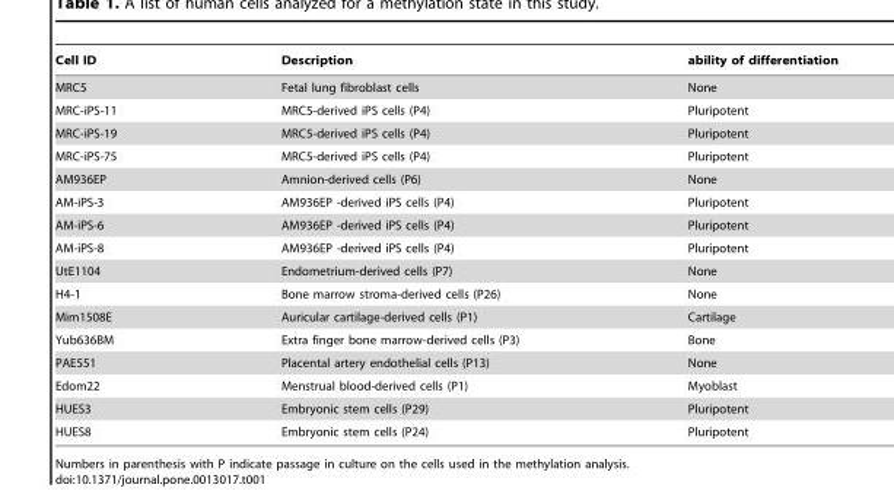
<table><thead><tr><td>Cell ID</td><td>Description</td><td>ability of differentiation</td></tr></thead><tbody><tr><td>MRC5</td><td>Fetal lung fibroblast cells</td><td>None</td></tr><tr><td>MRC-iPS-11</td><td>MRC5-derived iPS cells (P4)</td><td>Pluripotent</td></tr><tr><td>MRC-iPS-19</td><td>MRC5-derived iPS cells (P4)</td><td>Pluripotent</td></tr><tr><td>MRC-iPS-75</td><td>MRC5-derived iPS cells (P4)</td><td>Pluripotent</td></tr><tr><td>AM936EP</td><td>Amnion-derived cells (P6)</td><td>None</td></tr><tr><td>AM-iPS-3</td><td>AM936EP -derived iPS cells (P4)</td><td>Pluripotent</td></tr><tr><td>AM-iPS-6</td><td>AM936EP -derived iPS cells (P4)</td><td>Pluripotent</td></tr><tr><td>AM-iPS-8</td><td>AM936EP -derived iPS cells (P4)</td><td>Pluripotent</td></tr><tr><td>UtE1104</td><td>Endometrium-derived cells (P7)</td><td>None</td></tr><tr><td>H4-1</td><td>Bone marrow stroma-derived cells (P26)</td><td>None</td></tr><tr><td>Mim1508E</td><td>Auricular cartilage-derived cells (P1)</td><td>Cartilage</td></tr><tr><td>Yub636BM</td><td>Extra finger bone marrow-derived cells (P3)</td><td>Bone</td></tr><tr><td>PAE551</td><td>Placental artery endothelial cells (P13)</td><td>None</td></tr><tr><td>Edom22</td><td>Menstrual blood-derived cells (P1)</td><td>Myoblast</td></tr><tr><td>HUES3</td><td>Embryonic stem cells (P29)</td><td>Pluripotent</td></tr><tr><td>HUES8</td><td>Embryonic stem cells (P24)</td><td>Pluripotent</td></tr></tbody></table>